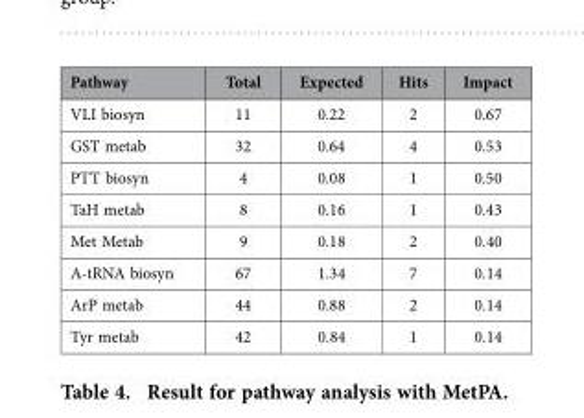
<table><thead><tr><td>Pathway</td><td>Total</td><td>Expected</td><td>Hits</td><td>Impact</td></tr></thead><tbody><tr><td>VLI biosyn</td><td>11</td><td>0.22</td><td>2</td><td>0.67</td></tr><tr><td>GST metab</td><td>32</td><td>0.64</td><td>4</td><td>0.53</td></tr><tr><td>PTT biosyn</td><td>4</td><td>0.08</td><td>1</td><td>0.50</td></tr><tr><td>TaH metab</td><td>8</td><td>0.16</td><td>1</td><td>0.43</td></tr><tr><td>Met Metab</td><td>9</td><td>0.18</td><td>2</td><td>0.40</td></tr><tr><td>A-tRNA biosyn</td><td>67</td><td>1.34</td><td>7</td><td>0.14</td></tr><tr><td>ArP metab</td><td>44</td><td>0.88</td><td>2</td><td>0.14</td></tr><tr><td>Tyr metab</td><td>42</td><td>0.84</td><td>1</td><td>0.14</td></tr></tbody></table>